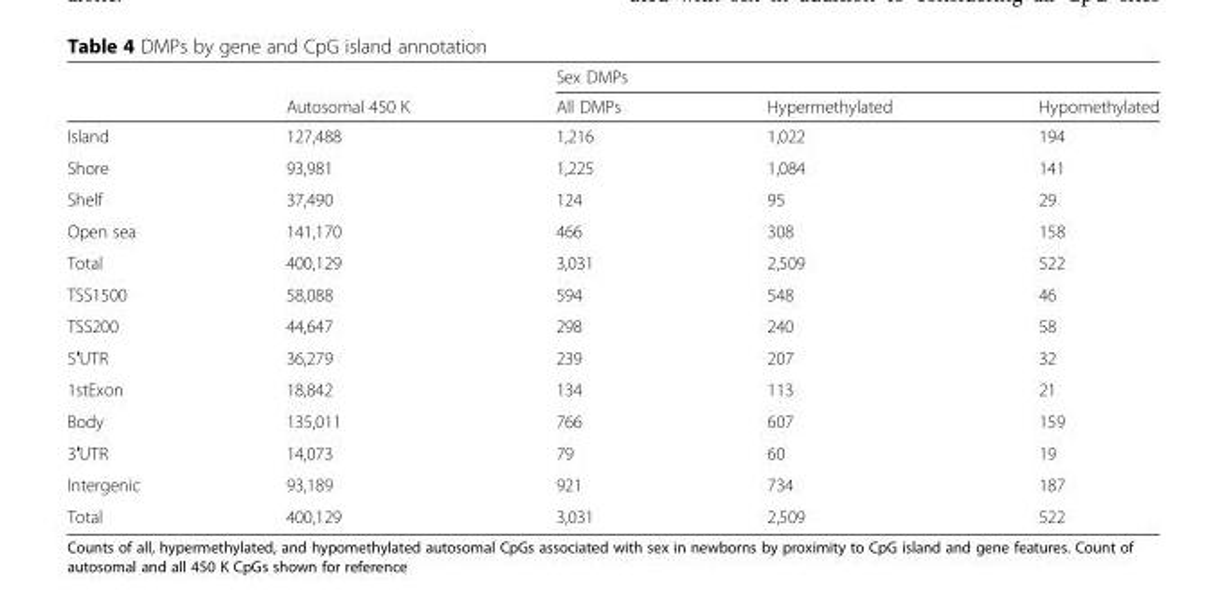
<table><thead><tr><td rowspan="2"></td><td rowspan="2">Autosomal 450 K</td><td colspan="3">Sex DMPs</td></tr><tr><td>All DMPs</td><td>Hypermethylated</td><td>Hypomethylated</td></tr></thead><tbody><tr><td>Island</td><td>127,488</td><td>1,216</td><td>1,022</td><td>194</td></tr><tr><td>Shore</td><td>93,981</td><td>1,225</td><td>1,084</td><td>141</td></tr><tr><td>Shelf</td><td>37,490</td><td>124</td><td>95</td><td>29</td></tr><tr><td>Open sea</td><td>141,170</td><td>466</td><td>308</td><td>158</td></tr><tr><td>Total</td><td>400,129</td><td>3,031</td><td>2,509</td><td>522</td></tr><tr><td>TSS1500</td><td>58,088</td><td>594</td><td>548</td><td>46</td></tr><tr><td>TSS200</td><td>44,647</td><td>298</td><td>240</td><td>58</td></tr><tr><td>5′UTR</td><td>36,279</td><td>239</td><td>207</td><td>32</td></tr><tr><td>1stExon</td><td>18,842</td><td>134</td><td>113</td><td>21</td></tr><tr><td>Body</td><td>135,011</td><td>766</td><td>607</td><td>159</td></tr><tr><td>3′UTR</td><td>14,073</td><td>79</td><td>60</td><td>19</td></tr><tr><td>Intergenic</td><td>93,189</td><td>921</td><td>734</td><td>187</td></tr><tr><td>Total</td><td>400,129</td><td>3,031</td><td>2,509</td><td>522</td></tr></tbody></table>